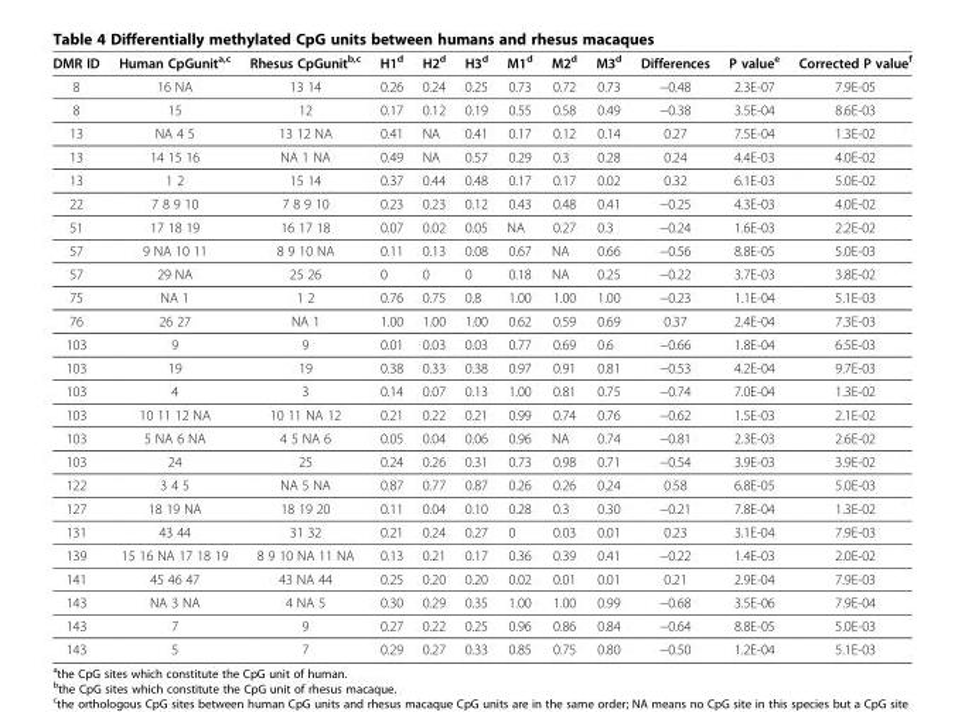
<table><thead><tr><td>DMR ID</td><td>Human CpGunit<sup>a,c</sup></td><td>Rhesus CpGunit<sup>b,c</sup></td><td>H1<sup>d</sup></td><td>H2<sup>d</sup></td><td>H3<sup>d</sup></td><td>M1<sup>d</sup></td><td>M2<sup>d</sup></td><td>M3<sup>d</sup></td><td>Differences</td><td>P value<sup>e</sup></td><td>Corrected P value<sup>f</sup></td></tr></thead><tbody><tr><td>8</td><td>16 NA</td><td>13 14</td><td>0.26</td><td>0.24</td><td>0.25</td><td>0.73</td><td>0.72</td><td>0.73</td><td>−0.48</td><td>2.3E-07</td><td>7.9E-05</td></tr><tr><td>8</td><td>15</td><td>12</td><td>0.17</td><td>0.12</td><td>0.19</td><td>0.55</td><td>0.58</td><td>0.49</td><td>−0.38</td><td>3.5E-04</td><td>8.6E-03</td></tr><tr><td>13</td><td>NA 4 5</td><td>13 12 NA</td><td>0.41</td><td>NA</td><td>0.41</td><td>0.17</td><td>0.12</td><td>0.14</td><td>0.27</td><td>7.5E-04</td><td>1.3E-02</td></tr><tr><td>13</td><td>14 15 16</td><td>NA 1 NA</td><td>0.49</td><td>NA</td><td>0.57</td><td>0.29</td><td>0.3</td><td>0.28</td><td>0.24</td><td>4.4E-03</td><td>4.0E-02</td></tr><tr><td>13</td><td>1 2</td><td>15 14</td><td>0.37</td><td>0.44</td><td>0.48</td><td>0.17</td><td>0.17</td><td>0.02</td><td>0.32</td><td>6.1E-03</td><td>5.0E-02</td></tr><tr><td>22</td><td>7 8 9 10</td><td>7 8 9 10</td><td>0.23</td><td>0.23</td><td>0.12</td><td>0.43</td><td>0.48</td><td>0.41</td><td>−0.25</td><td>4.3E-03</td><td>4.0E-02</td></tr><tr><td>51</td><td>17 18 19</td><td>16 17 18</td><td>0.07</td><td>0.02</td><td>0.05</td><td>NA</td><td>0.27</td><td>0.3</td><td>−0.24</td><td>1.6E-03</td><td>2.2E-02</td></tr><tr><td>57</td><td>9 NA 10 11</td><td>8 9 10 NA</td><td>0.11</td><td>0.13</td><td>0.08</td><td>0.67</td><td>NA</td><td>0.66</td><td>−0.56</td><td>8.8E-05</td><td>5.0E-03</td></tr><tr><td>57</td><td>29 NA</td><td>25 26</td><td>0</td><td>0</td><td>0</td><td>0.18</td><td>NA</td><td>0.25</td><td>−0.22</td><td>3.7E-03</td><td>3.8E-02</td></tr><tr><td>75</td><td>NA 1</td><td>1 2</td><td>0.76</td><td>0.75</td><td>0.8</td><td>1.00</td><td>1.00</td><td>1.00</td><td>−0.23</td><td>1.1E-04</td><td>5.1E-03</td></tr><tr><td>76</td><td>26 27</td><td>NA 1</td><td>1.00</td><td>1.00</td><td>1.00</td><td>0.62</td><td>0.59</td><td>0.69</td><td>0.37</td><td>2.4E-04</td><td>7.3E-03</td></tr><tr><td>103</td><td>9</td><td>9</td><td>0.01</td><td>0.03</td><td>0.03</td><td>0.77</td><td>0.69</td><td>0.6</td><td>−0.66</td><td>1.8E-04</td><td>6.5E-03</td></tr><tr><td>103</td><td>19</td><td>19</td><td>0.38</td><td>0.33</td><td>0.38</td><td>0.97</td><td>0.91</td><td>0.81</td><td>−0.53</td><td>4.2E-04</td><td>9.7E-03</td></tr><tr><td>103</td><td>4</td><td>3</td><td>0.14</td><td>0.07</td><td>0.13</td><td>1.00</td><td>0.81</td><td>0.75</td><td>−0.74</td><td>7.0E-04</td><td>1.3E-02</td></tr><tr><td>103</td><td>10 11 12 NA</td><td>10 11 NA 12</td><td>0.21</td><td>0.22</td><td>0.21</td><td>0.99</td><td>0.74</td><td>0.76</td><td>−0.62</td><td>1.5E-03</td><td>2.1E-02</td></tr><tr><td>103</td><td>5 NA 6 NA</td><td>4 5 NA 6</td><td>0.05</td><td>0.04</td><td>0.06</td><td>0.96</td><td>NA</td><td>0.74</td><td>−0.81</td><td>2.3E-03</td><td>2.6E-02</td></tr><tr><td>103</td><td>24</td><td>25</td><td>0.24</td><td>0.26</td><td>0.31</td><td>0.73</td><td>0.98</td><td>0.71</td><td>−0.54</td><td>3.9E-03</td><td>3.9E-02</td></tr><tr><td>122</td><td>3 4 5</td><td>NA 5 NA</td><td>0.87</td><td>0.77</td><td>0.87</td><td>0.26</td><td>0.26</td><td>0.24</td><td>0.58</td><td>6.8E-05</td><td>5.0E-03</td></tr><tr><td>127</td><td>18 19 NA</td><td>18 19 20</td><td>0.11</td><td>0.04</td><td>0.10</td><td>0.28</td><td>0.3</td><td>0.30</td><td>−0.21</td><td>7.8E-04</td><td>1.3E-02</td></tr><tr><td>131</td><td>43 44</td><td>31 32</td><td>0.21</td><td>0.24</td><td>0.27</td><td>0</td><td>0.03</td><td>0.01</td><td>0.23</td><td>3.1E-04</td><td>7.9E-03</td></tr><tr><td>139</td><td>15 16 NA 17 18 19</td><td>8 9 10 NA 11 NA</td><td>0.13</td><td>0.21</td><td>0.17</td><td>0.36</td><td>0.39</td><td>0.41</td><td>−0.22</td><td>1.4E-03</td><td>2.0E-02</td></tr><tr><td>141</td><td>45 46 47</td><td>43 NA 44</td><td>0.25</td><td>0.20</td><td>0.20</td><td>0.02</td><td>0.01</td><td>0.01</td><td>0.21</td><td>2.9E-04</td><td>7.9E-03</td></tr><tr><td>143</td><td>NA 3 NA</td><td>4 NA 5</td><td>0.30</td><td>0.29</td><td>0.35</td><td>1.00</td><td>1.00</td><td>0.99</td><td>−0.68</td><td>3.5E-06</td><td>7.9E-04</td></tr><tr><td>143</td><td>7</td><td>9</td><td>0.27</td><td>0.22</td><td>0.25</td><td>0.96</td><td>0.86</td><td>0.84</td><td>−0.64</td><td>8.8E-05</td><td>5.0E-03</td></tr><tr><td>143</td><td>5</td><td>7</td><td>0.29</td><td>0.27</td><td>0.33</td><td>0.85</td><td>0.75</td><td>0.80</td><td>−0.50</td><td>1.2E-04</td><td>5.1E-03</td></tr></tbody></table>